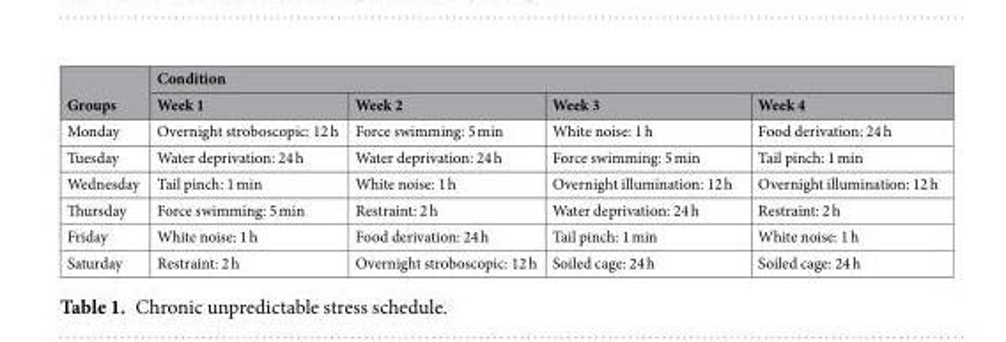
<table><thead><tr><td rowspan="2">Groups</td><td colspan="4">Condition</td></tr><tr><td>Week 1</td><td>Week 2</td><td>Week 3</td><td>Week 4</td></tr></thead><tbody><tr><td>Monday</td><td>Overnight stroboscopic: 12 h</td><td>Force swimming: 5 min</td><td>White noise: 1 h</td><td>Food derivation: 24 h</td></tr><tr><td>Tuesday</td><td>Water deprivation: 24 h</td><td>Water deprivation: 24 h</td><td>Force swimming: 5 min</td><td>Tail pinch: 1 min</td></tr><tr><td>Wednesday</td><td>Tail pinch: 1 min</td><td>White noise: 1 h</td><td>Overnight illumination: 12 h</td><td>Overnight illumination: 12 h</td></tr><tr><td>Thursday</td><td>Force swimming: 5 min</td><td>Restraint: 2 h</td><td>Water deprivation: 24 h</td><td>Restraint: 2 h</td></tr><tr><td>Friday</td><td>White noise: 1 h</td><td>Food derivation: 24 h</td><td>Tail pinch: 1 min</td><td>White noise: 1 h</td></tr><tr><td>Saturday</td><td>Restraint: 2 h</td><td>Overnight stroboscopic: 12 h</td><td>Soiled cage: 24 h</td><td>Soiled cage: 24 h</td></tr></tbody></table>